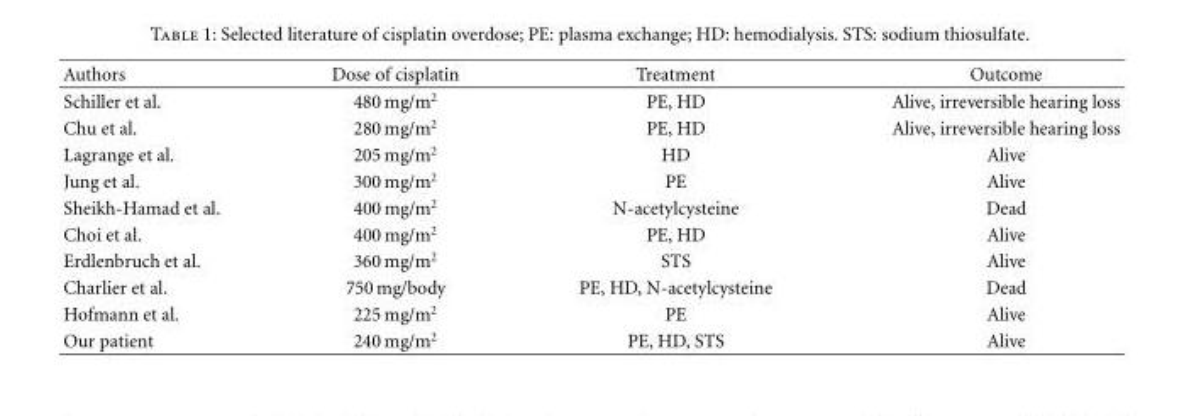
<table><thead><tr><td>Authors</td><td>Dose of cisplatin</td><td>Treatment</td><td>Outcome</td></tr></thead><tbody><tr><td>Schiller et al.</td><td>480 mg/m<sup>2</sup></td><td>PE, HD</td><td>Alive, irreversible hearing loss</td></tr><tr><td>Chu et al.</td><td>280 mg/m<sup>2</sup></td><td>PE, HD</td><td>Alive, irreversible hearing loss</td></tr><tr><td>Lagrange et al.</td><td>205 mg/m<sup>2</sup></td><td>HD</td><td>Alive</td></tr><tr><td>Jung et al.</td><td>300 mg/m<sup>2</sup></td><td>PE</td><td>Alive</td></tr><tr><td>Sheikh-Hamad et al.</td><td>400 mg/m<sup>2</sup></td><td>N-acetylcysteine</td><td>Dead</td></tr><tr><td>Choi et al.</td><td>400 mg/m<sup>2</sup></td><td>PE, HD</td><td>Alive</td></tr><tr><td>Erdlenbruch et al.</td><td>360 mg/m<sup>2</sup></td><td>STS</td><td>Alive</td></tr><tr><td>Charlier et al.</td><td>750 mg/body</td><td>PE, HD, N-acetylcysteine</td><td>Dead</td></tr><tr><td>Hofmann et al.</td><td>225 mg/m<sup>2</sup></td><td>PE</td><td>Alive</td></tr><tr><td>Our patient</td><td>240 mg/m<sup>2</sup></td><td>PE, HD, STS</td><td>Alive</td></tr></tbody></table>